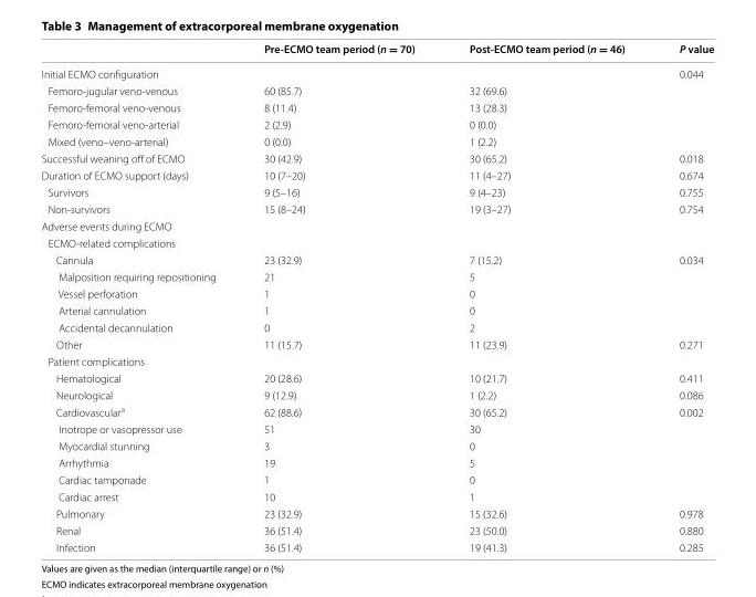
<table><thead><tr><td></td><td>Pre-ECMO team period (n = 70)</td><td>Post-ECMO team period (n = 46)</td><td>P value</td></tr></thead><tbody><tr><td>Initial ECMO configuration</td><td></td><td></td><td>0.044</td></tr><tr><td>Femoro-jugular veno-venous</td><td>60 (85.7)</td><td>32 (69.6)</td><td></td></tr><tr><td>Femoro-femoral veno-venous</td><td>8 (11.4)</td><td>13 (28.3)</td><td></td></tr><tr><td>Femoro-femoral veno-arterial</td><td>2 (2.9)</td><td>0 (0.0)</td><td></td></tr><tr><td>Mixed (veno–veno-arterial)</td><td>0 (0.0)</td><td>1 (2.2)</td><td></td></tr><tr><td>Successful weaning off of ECMO</td><td>30 (42.9)</td><td>30 (65.2)</td><td>0.018</td></tr><tr><td>Duration of ECMO support (days)</td><td>10 (7–20)</td><td>11 (4–27)</td><td>0.674</td></tr><tr><td>Survivors</td><td>9 (5–16)</td><td>9 (4–23)</td><td>0.755</td></tr><tr><td>Non-survivors</td><td>15 (8–24)</td><td>19 (3–27)</td><td>0.754</td></tr><tr><td colspan="4">Adverse events during ECMO</td></tr><tr><td colspan="4">ECMO-related complications</td></tr><tr><td>Cannula</td><td>23 (32.9)</td><td>7 (15.2)</td><td>0.034</td></tr><tr><td>Malposition requiring repositioning</td><td>21</td><td>5</td><td></td></tr><tr><td>Vessel perforation</td><td>1</td><td>0</td><td></td></tr><tr><td>Arterial cannulation</td><td>1</td><td>0</td><td></td></tr><tr><td>Accidental decannulation</td><td>0</td><td>2</td><td></td></tr><tr><td>Other</td><td>11 (15.7)</td><td>11 (23.9)</td><td>0.271</td></tr><tr><td colspan="4">Patient complications</td></tr><tr><td>Hematological</td><td>20 (28.6)</td><td>10 (21.7)</td><td>0.411</td></tr><tr><td>Neurological</td><td>9 (12.9)</td><td>1 (2.2)</td><td>0.086</td></tr><tr><td>Cardiovascular<sup>a</sup></td><td>62 (88.6)</td><td>30 (65.2)</td><td>0.002</td></tr><tr><td>Inotrope or vasopressor use</td><td>51</td><td>30</td><td></td></tr><tr><td>Myocardial stunning</td><td>3</td><td>0</td><td></td></tr><tr><td>Arrhythmia</td><td>19</td><td>5</td><td></td></tr><tr><td>Cardiac tamponade</td><td>1</td><td>0</td><td></td></tr><tr><td>Cardiac arrest</td><td>10</td><td>1</td><td></td></tr><tr><td>Pulmonary</td><td>23 (32.9)</td><td>15 (32.6)</td><td>0.978</td></tr><tr><td>Renal</td><td>36 (51.4)</td><td>23 (50.0)</td><td>0.880</td></tr><tr><td>Infection</td><td>36 (51.4)</td><td>19 (41.3)</td><td>0.285</td></tr></tbody></table>